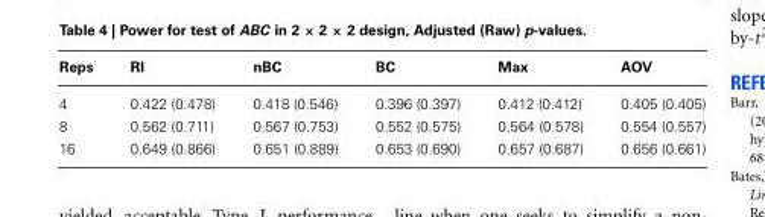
<table><thead><tr><td>Reps</td><td>RI</td><td>nBC</td><td>BC</td><td>Max</td><td>AOV</td></tr></thead><tbody><tr><td>4</td><td>0.422 (0.478)</td><td>0.418 (0.546)</td><td>0.396 (0.397)</td><td>0.412 (0.412)</td><td>0.405 (0.405)</td></tr><tr><td>8</td><td>0.562 (0.711)</td><td>0.567 (0.753)</td><td>0.552 (0.575)</td><td>0.564 (0.578)</td><td>0.554 (0.557)</td></tr><tr><td>16</td><td>0.649 (0.866)</td><td>0.651 (0.889)</td><td>0.653 (0.690)</td><td>0.657 (0.687)</td><td>0.656 (0.661)</td></tr></tbody></table>